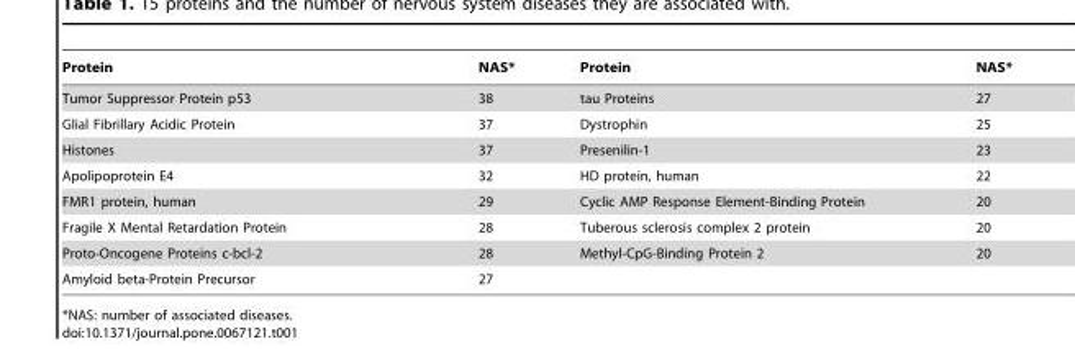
<table><thead><tr><td>Protein</td><td>NAS*</td><td>Protein</td><td>NAS*</td></tr></thead><tbody><tr><td>Tumor Suppressor Protein p53</td><td>38</td><td>tau Proteins</td><td>27</td></tr><tr><td>Glial Fibrillary Acidic Protein</td><td>37</td><td>Dystrophin</td><td>25</td></tr><tr><td>Histones</td><td>37</td><td>Presenilin-1</td><td>23</td></tr><tr><td>Apolipoprotein E4</td><td>32</td><td>HD protein, human</td><td>22</td></tr><tr><td>FMR1 protein, human</td><td>29</td><td>Cyclic AMP Response Element-Binding Protein</td><td>20</td></tr><tr><td>Fragile X Mental Retardation Protein</td><td>28</td><td>Tuberous sclerosis complex 2 protein</td><td>20</td></tr><tr><td>Proto-Oncogene Proteins c-bcl-2</td><td>28</td><td>Methyl-CpG-Binding Protein 2</td><td>20</td></tr><tr><td>Amyloid beta-Protein Precursor</td><td>27</td><td></td><td></td></tr></tbody></table>